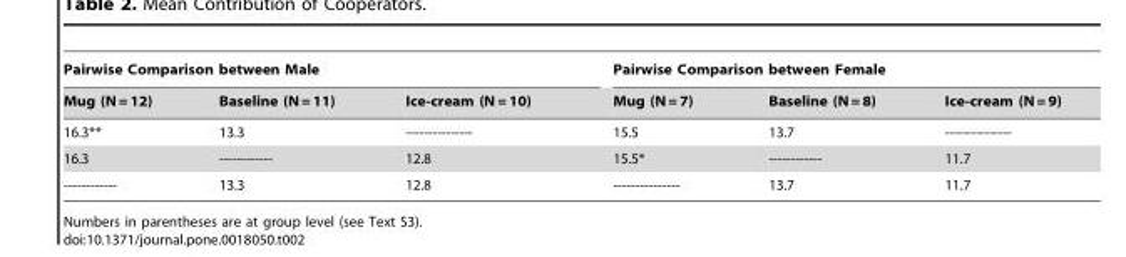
<table><thead><tr><td colspan="3">Pairwise Comparison between Male</td><td colspan="3">Pairwise Comparison between Female</td></tr><tr><td>Mug (N = 12)</td><td>Baseline (N = 11)</td><td>Ice-cream (N = 10)</td><td>Mug (N = 7)</td><td>Baseline (N = 8)</td><td>Ice-cream (N = 9)</td></tr></thead><tbody><tr><td>16.3**</td><td>13.3</td><td>---------------</td><td>15.5</td><td>13.7</td><td>---------------</td></tr><tr><td>16.3</td><td>------------</td><td>12.8</td><td>15.5*</td><td>------------</td><td>11.7</td></tr><tr><td>------------</td><td>13.3</td><td>12.8</td><td>---------------</td><td>13.7</td><td>11.7</td></tr></tbody></table>